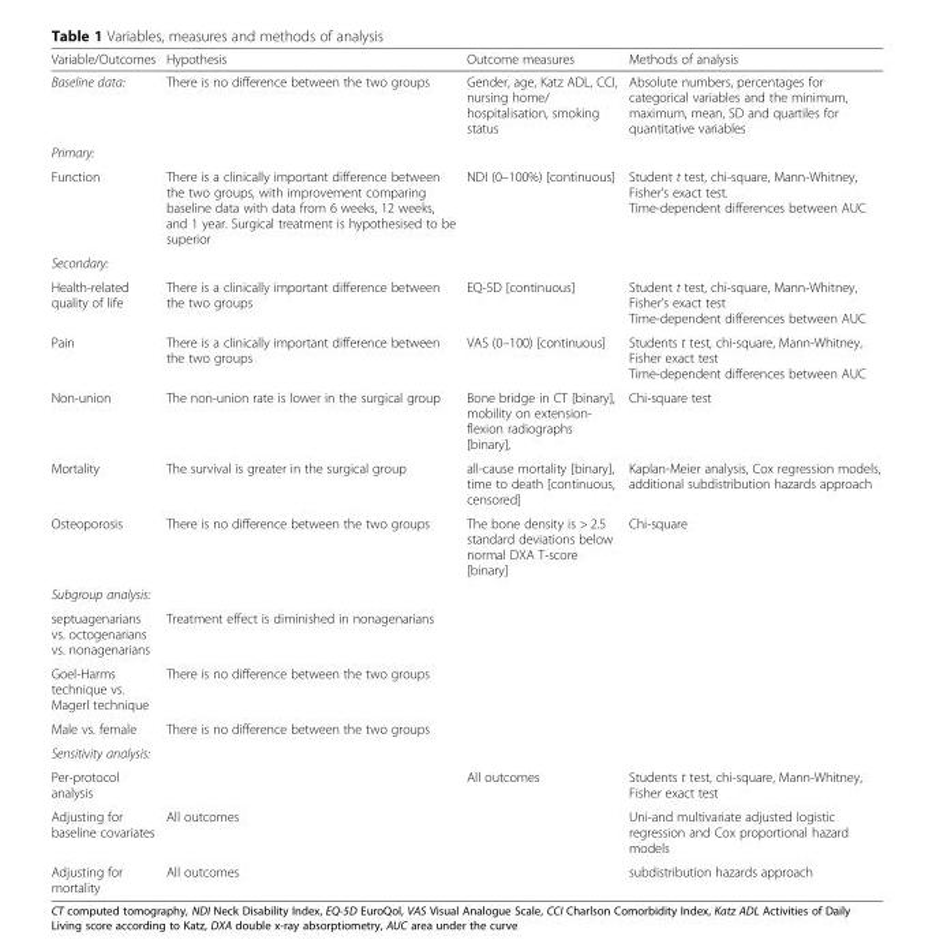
<table><thead><tr><td>Variable/Outcomes</td><td>Hypothesis</td><td>Outcome measures</td><td>Methods of analysis</td></tr></thead><tbody><tr><td>Baseline data:</td><td>There is no difference between the two groups</td><td>Gender, age, Katz ADL, CCI, nursing home/ hospitalisation, smoking status</td><td>Absolute numbers, percentages for categorical variables and the minimum, maximum, mean, SD and quartiles for quantitative variables</td></tr><tr><td colspan="4">Primary:</td></tr><tr><td>Function</td><td>There is a clinically important difference between the two groups, with improvement comparing baseline data with data from 6 weeks, 12 weeks, and 1 year. Surgical treatment is hypothesised to be superior</td><td>NDI (0–100%) [continuous]</td><td>Student t test, chi-square, Mann-Whitney, Fisher’s exact test. Time-dependent differences between AUC</td></tr><tr><td colspan="4">Secondary:</td></tr><tr><td>Health-related quality of life</td><td>There is a clinically important difference between the two groups</td><td>EQ-5D [continuous]</td><td>Student t test, chi-square, Mann-Whitney, Fisher’s exact test Time-dependent differences between AUC</td></tr><tr><td>Pain</td><td>There is a clinically important difference between the two groups</td><td>VAS (0–100) [continuous]</td><td>Students t test, chi-square, Mann-Whitney, Fisher exact test Time-dependent differences between AUC</td></tr><tr><td>Non-union</td><td>The non-union rate is lower in the surgical group</td><td>Bone bridge in CT [binary], mobility on extension- flexion radiographs [binary],</td><td>Chi-square test</td></tr><tr><td>Mortality</td><td>The survival is greater in the surgical group</td><td>all-cause mortality [binary], time to death [continuous, censored]</td><td>Kaplan-Meier analysis, Cox regression models, additional subdistribution hazards approach</td></tr><tr><td>Osteoporosis</td><td>There is no difference between the two groups</td><td>The bone density is &gt; 2.5 standard deviations below normal DXA T-score [binary]</td><td>Chi-square</td></tr><tr><td colspan="4">Subgroup analysis:</td></tr><tr><td>septuagenarians vs. octogenarians vs. nonagenarians</td><td>Treatment effect is diminished in nonagenarians</td><td></td><td></td></tr><tr><td>Goel-Harms technique vs. Magerl technique</td><td>There is no difference between the two groups</td><td></td><td></td></tr><tr><td>Male vs. female</td><td>There is no difference between the two groups</td><td></td><td></td></tr><tr><td colspan="4">Sensitivity analysis:</td></tr><tr><td>Per-protocol analysis</td><td></td><td>All outcomes</td><td>Students t test, chi-square, Mann-Whitney, Fisher exact test</td></tr><tr><td>Adjusting for baseline covariates</td><td>All outcomes</td><td></td><td>Uni-and multivariate adjusted logistic regression and Cox proportional hazard models</td></tr><tr><td>Adjusting for mortality</td><td>All outcomes</td><td></td><td>subdistribution hazards approach</td></tr></tbody></table>